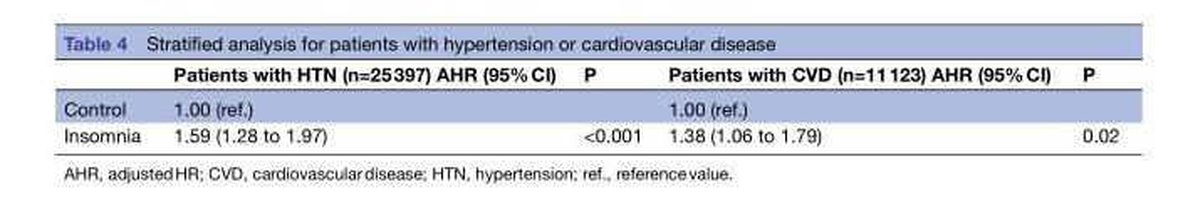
<table><thead><tr><td></td><td>Patients with HTN (n=25 397) AHR (95% CI)</td><td>P</td><td>Patients with CVD (n=11 123) AHR (95% CI)</td><td>P</td></tr></thead><tbody><tr><td>Control</td><td>1.00 (ref.)</td><td></td><td>1.00 (ref.)</td><td></td></tr><tr><td>Insomnia</td><td>1.59 (1.28 to 1.97)</td><td>&lt;0.001</td><td>1.38 (1.06 to 1.79)</td><td>0.02</td></tr></tbody></table>